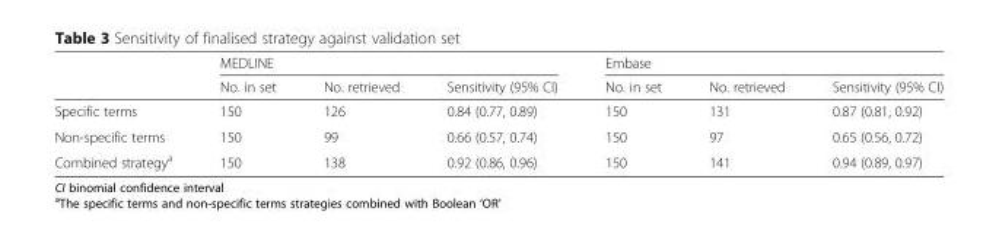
<table><thead><tr><td rowspan="2"></td><td colspan="3">MEDLINE</td><td colspan="3">Embase</td></tr><tr><td>No. in set</td><td>No. retrieved</td><td>Sensitivity (95% CI)</td><td>No. in set</td><td>No. retrieved</td><td>Sensitivity (95% CI)</td></tr></thead><tbody><tr><td>Specific terms</td><td>150</td><td>126</td><td>0.84 (0.77, 0.89)</td><td>150</td><td>131</td><td>0.87 (0.81, 0.92)</td></tr><tr><td>Non-specific terms</td><td>150</td><td>99</td><td>0.66 (0.57, 0.74)</td><td>150</td><td>97</td><td>0.65 (0.56, 0.72)</td></tr><tr><td>Combined strategy<sup>a</sup></td><td>150</td><td>138</td><td>0.92 (0.86, 0.96)</td><td>150</td><td>141</td><td>0.94 (0.89, 0.97)</td></tr></tbody></table>